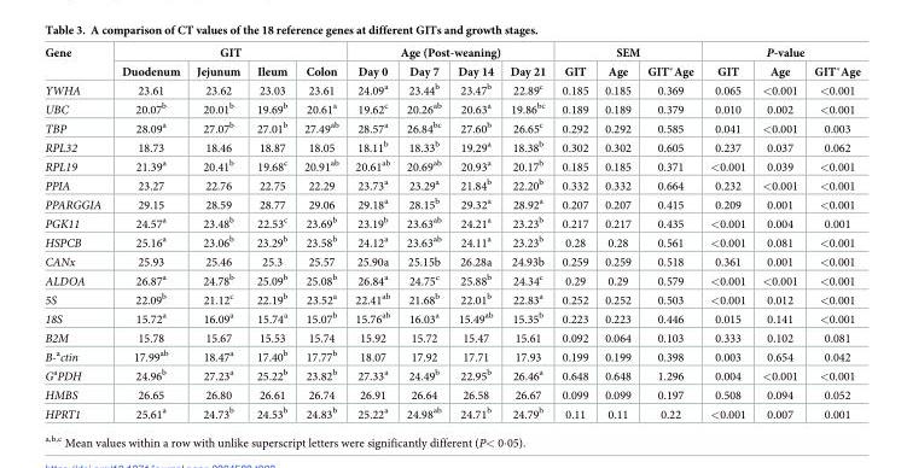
<table><thead><tr><td rowspan="2">Gene</td><td colspan="4">GIT</td><td colspan="4">Age (Post-weaning)</td><td colspan="3">SEM</td><td colspan="3">P-value</td></tr><tr><td>Duodenum</td><td>Jejunum</td><td>Ileum</td><td>Colon</td><td>Day 0</td><td>Day 7</td><td>Day 14</td><td>Day 21</td><td>GIT</td><td>Age</td><td>GIT*Age</td><td>GIT</td><td>Age</td><td>GIT*Age</td></tr></thead><tbody><tr><td>YWHA</td><td>23.61</td><td>23.62</td><td>23.03</td><td>23.61</td><td>24.09<sup>a</sup></td><td>23.44<sup>b</sup></td><td>23.47<sup>b</sup></td><td>22.89<sup>c</sup></td><td>0.185</td><td>0.185</td><td>0.369</td><td>0.065</td><td>&lt;0.001</td><td>&lt;0.001</td></tr><tr><td>UBC</td><td>20.07<sup>b</sup></td><td>20.01<sup>b</sup></td><td>19.69<sup>b</sup></td><td>20.61<sup>a</sup></td><td>19.62<sup>c</sup></td><td>20.26<sup>ab</sup></td><td>20.63<sup>a</sup></td><td>19.86<sup>bc</sup></td><td>0.189</td><td>0.189</td><td>0.379</td><td>0.010</td><td>0.002</td><td>&lt;0.001</td></tr><tr><td>TBP</td><td>28.09<sup>a</sup></td><td>27.07<sup>b</sup></td><td>27.01<sup>b</sup></td><td>27.49<sup>ab</sup></td><td>28.57<sup>a</sup></td><td>26.84<sup>bc</sup></td><td>27.60<sup>b</sup></td><td>26.65<sup>c</sup></td><td>0.292</td><td>0.292</td><td>0.585</td><td>0.041</td><td>&lt;0.001</td><td>0.003</td></tr><tr><td>RPL32</td><td>18.73</td><td>18.46</td><td>18.87</td><td>18.05</td><td>18.11<sup>b</sup></td><td>18.33<sup>b</sup></td><td>19.29<sup>a</sup></td><td>18.38<sup>b</sup></td><td>0.302</td><td>0.302</td><td>0.605</td><td>0.237</td><td>0.037</td><td>0.062</td></tr><tr><td>RPL19</td><td>21.39<sup>a</sup></td><td>20.41<sup>b</sup></td><td>19.68<sup>c</sup></td><td>20.91<sup>ab</sup></td><td>20.61<sup>ab</sup></td><td>20.69<sup>ab</sup></td><td>20.93<sup>a</sup></td><td>20.17<sup>b</sup></td><td>0.185</td><td>0.185</td><td>0.371</td><td>&lt;0.001</td><td>0.039</td><td>&lt;0.001</td></tr><tr><td>PPIA</td><td>23.27</td><td>22.76</td><td>22.75</td><td>22.29</td><td>23.73<sup>a</sup></td><td>23.29<sup>a</sup></td><td>21.84<sup>b</sup></td><td>22.20<sup>b</sup></td><td>0.332</td><td>0.332</td><td>0.664</td><td>0.232</td><td>&lt;0.001</td><td>&lt;0.001</td></tr><tr><td>PPARGGIA</td><td>29.15</td><td>28.59</td><td>28.77</td><td>29.06</td><td>29.18<sup>a</sup></td><td>28.15<sup>b</sup></td><td>29.32<sup>a</sup></td><td>28.92<sup>a</sup></td><td>0.207</td><td>0.207</td><td>0.415</td><td>0.209</td><td>0.001</td><td>&lt;0.001</td></tr><tr><td>PGK11</td><td>24.57<sup>a</sup></td><td>23.48<sup>b</sup></td><td>22.53<sup>c</sup></td><td>23.69<sup>b</sup></td><td>23.19<sup>b</sup></td><td>23.63<sup>ab</sup></td><td>24.21<sup>a</sup></td><td>23.23<sup>b</sup></td><td>0.217</td><td>0.217</td><td>0.435</td><td>&lt;0.001</td><td>0.004</td><td>0.001</td></tr><tr><td>HSPCB</td><td>25.16<sup>a</sup></td><td>23.06<sup>b</sup></td><td>23.29<sup>b</sup></td><td>23.58<sup>b</sup></td><td>24.12<sup>a</sup></td><td>23.63<sup>ab</sup></td><td>24.11<sup>a</sup></td><td>23.23<sup>b</sup></td><td>0.28</td><td>0.28</td><td>0.561</td><td>&lt;0.001</td><td>0.081</td><td>&lt;0.001</td></tr><tr><td>CANx</td><td>25.93</td><td>25.46</td><td>25.3</td><td>25.57</td><td>25.90a</td><td>25.15b</td><td>26.28a</td><td>24.93b</td><td>0.259</td><td>0.259</td><td>0.518</td><td>0.361</td><td>0.001</td><td>&lt;0.001</td></tr><tr><td>ALDOA</td><td>26.87<sup>a</sup></td><td>24.78<sup>b</sup></td><td>25.09<sup>b</sup></td><td>25.08<sup>b</sup></td><td>26.84<sup>a</sup></td><td>24.75<sup>c</sup></td><td>25.88<sup>b</sup></td><td>24.34<sup>c</sup></td><td>0.29</td><td>0.29</td><td>0.579</td><td>&lt;0.001</td><td>&lt;0.001</td><td>&lt;0.001</td></tr><tr><td>5S</td><td>22.09<sup>b</sup></td><td>21.12<sup>c</sup></td><td>22.19<sup>b</sup></td><td>23.52<sup>a</sup></td><td>22.41<sup>ab</sup></td><td>21.68<sup>b</sup></td><td>22.01<sup>b</sup></td><td>22.83<sup>a</sup></td><td>0.252</td><td>0.252</td><td>0.503</td><td>&lt;0.001</td><td>0.012</td><td>&lt;0.001</td></tr><tr><td>18S</td><td>15.72<sup>a</sup></td><td>16.09<sup>a</sup></td><td>15.74<sup>a</sup></td><td>15.07<sup>b</sup></td><td>15.76<sup>ab</sup></td><td>16.03<sup>a</sup></td><td>15.49<sup>ab</sup></td><td>15.35<sup>b</sup></td><td>0.223</td><td>0.223</td><td>0.446</td><td>0.015</td><td>0.141</td><td>&lt;0.001</td></tr><tr><td>B2M</td><td>15.78</td><td>15.67</td><td>15.53</td><td>15.74</td><td>15.92</td><td>15.72</td><td>15.47</td><td>15.61</td><td>0.092</td><td>0.064</td><td>0.103</td><td>0.333</td><td>0.102</td><td>0.081</td></tr><tr><td>B-<sup>a</sup>ctin</td><td>17.99<sup>ab</sup></td><td>18.47<sup>a</sup></td><td>17.40<sup>b</sup></td><td>17.77<sup>b</sup></td><td>18.07</td><td>17.92</td><td>17.71</td><td>17.93</td><td>0.199</td><td>0.199</td><td>0.398</td><td>0.003</td><td>0.654</td><td>0.042</td></tr><tr><td>G<sup>a</sup>PDH</td><td>24.96<sup>b</sup></td><td>27.23<sup>a</sup></td><td>25.22<sup>b</sup></td><td>23.82<sup>b</sup></td><td>27.33<sup>a</sup></td><td>24.49<sup>b</sup></td><td>22.95<sup>b</sup></td><td>26.46<sup>a</sup></td><td>0.648</td><td>0.648</td><td>1.296</td><td>0.004</td><td>&lt;0.001</td><td>&lt;0.001</td></tr><tr><td>HMBS</td><td>26.65</td><td>26.80</td><td>26.61</td><td>26.74</td><td>26.91</td><td>26.64</td><td>26.58</td><td>26.67</td><td>0.099</td><td>0.099</td><td>0.197</td><td>0.508</td><td>0.094</td><td>0.052</td></tr><tr><td>HPRT1</td><td>25.61<sup>a</sup></td><td>24.73<sup>b</sup></td><td>24.53<sup>b</sup></td><td>24.83<sup>b</sup></td><td>25.22<sup>a</sup></td><td>24.98<sup>ab</sup></td><td>24.71<sup>b</sup></td><td>24.79<sup>b</sup></td><td>0.11</td><td>0.11</td><td>0.22</td><td>&lt;0.001</td><td>0.007</td><td>0.001</td></tr></tbody></table>